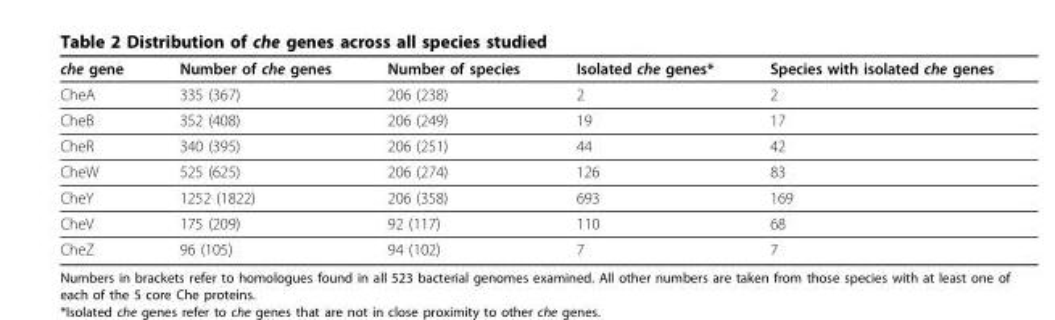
<table><thead><tr><td>che gene</td><td>Number of che genes</td><td>Number of species</td><td>Isolated che genes*</td><td>Species with isolated che genes</td></tr></thead><tbody><tr><td>CheA</td><td>335 (367)</td><td>206 (238)</td><td>2</td><td>2</td></tr><tr><td>CheB</td><td>352 (408)</td><td>206 (249)</td><td>19</td><td>17</td></tr><tr><td>CheR</td><td>340 (395)</td><td>206 (251)</td><td>44</td><td>42</td></tr><tr><td>CheW</td><td>525 (625)</td><td>206 (274)</td><td>126</td><td>83</td></tr><tr><td>CheY</td><td>1252 (1822)</td><td>206 (358)</td><td>693</td><td>169</td></tr><tr><td>CheV</td><td>175 (209)</td><td>92 (117)</td><td>110</td><td>68</td></tr><tr><td>CheZ</td><td>96 (105)</td><td>94 (102)</td><td>7</td><td>7</td></tr></tbody></table>